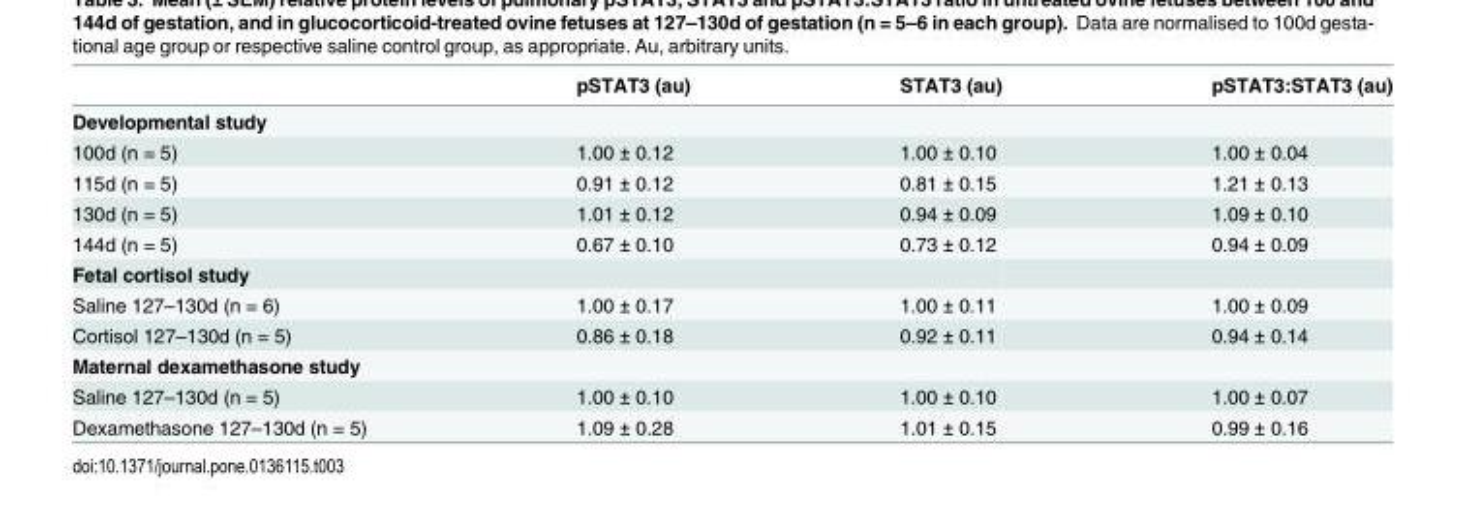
<table><thead><tr><td></td><td>pSTAT3 (au)</td><td>STAT3 (au)</td><td>pSTAT3:STAT3 (au)</td></tr></thead><tbody><tr><td colspan="4">Developmental study</td></tr><tr><td>100d (n = 5)</td><td>1.00 ± 0.12</td><td>1.00 ± 0.10</td><td>1.00 ± 0.04</td></tr><tr><td>115d (n = 5)</td><td>0.91 ± 0.12</td><td>0.81 ± 0.15</td><td>1.21 ± 0.13</td></tr><tr><td>130d (n = 5)</td><td>1.01 ± 0.12</td><td>0.94 ± 0.09</td><td>1.09 ± 0.10</td></tr><tr><td>144d (n = 5)</td><td>0.67 ± 0.10</td><td>0.73 ± 0.12</td><td>0.94 ± 0.09</td></tr><tr><td colspan="4">Fetal cortisol study</td></tr><tr><td>Saline 127–130d (n = 6)</td><td>1.00 ± 0.17</td><td>1.00 ± 0.11</td><td>1.00 ± 0.09</td></tr><tr><td>Cortisol 127–130d (n = 5)</td><td>0.86 ± 0.18</td><td>0.92 ± 0.11</td><td>0.94 ± 0.14</td></tr><tr><td colspan="4">Maternal dexamethasone study</td></tr><tr><td>Saline 127–130d (n = 5)</td><td>1.00 ± 0.10</td><td>1.00 ± 0.10</td><td>1.00 ± 0.07</td></tr><tr><td>Dexamethasone 127–130d (n = 5)</td><td>1.09 ± 0.28</td><td>1.01 ± 0.15</td><td>0.99 ± 0.16</td></tr></tbody></table>